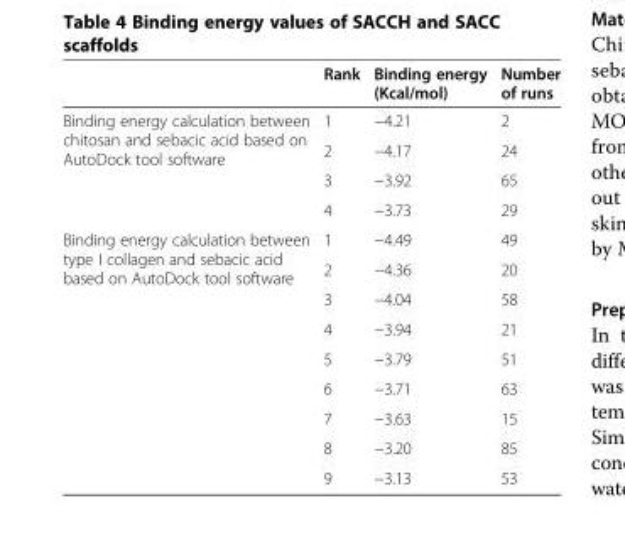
<table><thead><tr><td></td><td>Rank</td><td>Binding energy (Kcal/mol)</td><td>Number of runs</td></tr></thead><tbody><tr><td rowspan="4">Binding energy calculation between chitosan and sebacic acid based on AutoDock tool software</td><td>1</td><td>−4.21</td><td>2</td></tr><tr><td>2</td><td>−4.17</td><td>24</td></tr><tr><td>3</td><td>−3.92</td><td>65</td></tr><tr><td>4</td><td>−3.73</td><td>29</td></tr><tr><td rowspan="9">Binding energy calculation between type I collagen and sebacic acid based on AutoDock tool software</td><td>1</td><td>−4.49</td><td>49</td></tr><tr><td>2</td><td>−4.36</td><td>20</td></tr><tr><td>3</td><td>−4.04</td><td>58</td></tr><tr><td>4</td><td>−3.94</td><td>21</td></tr><tr><td>5</td><td>−3.79</td><td>51</td></tr><tr><td>6</td><td>−3.71</td><td>63</td></tr><tr><td>7</td><td>−3.63</td><td>15</td></tr><tr><td>8</td><td>−3.20</td><td>85</td></tr><tr><td>9</td><td>−3.13</td><td>53</td></tr></tbody></table>